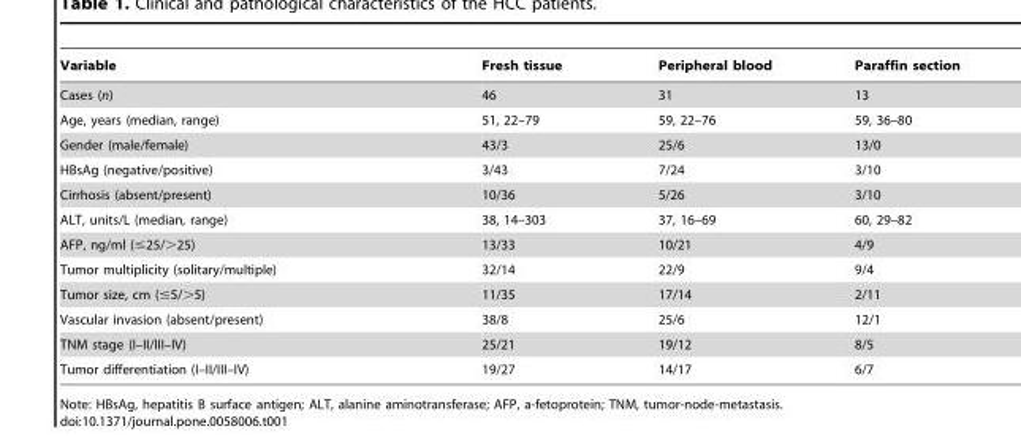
<table><thead><tr><td>Variable</td><td>Fresh tissue</td><td>Peripheral blood</td><td>Paraffin section</td></tr></thead><tbody><tr><td>Cases (n)</td><td>46</td><td>31</td><td>13</td></tr><tr><td>Age, years (median, range)</td><td>51, 22–79</td><td>59, 22–76</td><td>59, 36–80</td></tr><tr><td>Gender (male/female)</td><td>43/3</td><td>25/6</td><td>13/0</td></tr><tr><td>HBsAg (negative/positive)</td><td>3/43</td><td>7/24</td><td>3/10</td></tr><tr><td>Cirrhosis (absent/present)</td><td>10/36</td><td>5/26</td><td>3/10</td></tr><tr><td>ALT, units/L (median, range)</td><td>38, 14–303</td><td>37, 16–69</td><td>60, 29–82</td></tr><tr><td>AFP, ng/ml (≤25/&gt;25)</td><td>13/33</td><td>10/21</td><td>4/9</td></tr><tr><td>Tumor multiplicity (solitary/multiple)</td><td>32/14</td><td>22/9</td><td>9/4</td></tr><tr><td>Tumor size, cm (≤5/&gt;5)</td><td>11/35</td><td>17/14</td><td>2/11</td></tr><tr><td>Vascular invasion (absent/present)</td><td>38/8</td><td>25/6</td><td>12/1</td></tr><tr><td>TNM stage (I–II/III–IV)</td><td>25/21</td><td>19/12</td><td>8/5</td></tr><tr><td>Tumor differentiation (I–II/III–IV)</td><td>19/27</td><td>14/17</td><td>6/7</td></tr></tbody></table>